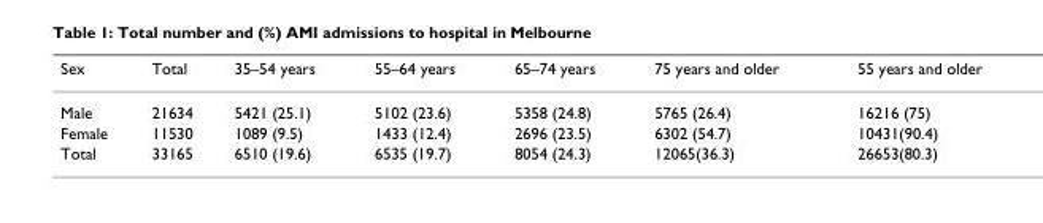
<table><thead><tr><td>Sex</td><td>Total</td><td>35–54 years</td><td>55–64 years</td><td>65–74 years</td><td>75 years and older</td><td>55 years and older</td></tr></thead><tbody><tr><td>Male</td><td>21634</td><td>5421 (25.1)</td><td>5102 (23.6)</td><td>5358 (24.8)</td><td>5765 (26.4)</td><td>16216 (75)</td></tr><tr><td>Female</td><td>11530</td><td>1089 (9.5)</td><td>1433 (12.4)</td><td>2696 (23.5)</td><td>6302 (54.7)</td><td>10431(90.4)</td></tr><tr><td>Total</td><td>33165</td><td>6510 (19.6)</td><td>6535 (19.7)</td><td>8054 (24.3)</td><td>12065(36.3)</td><td>26653(80.3)</td></tr></tbody></table>